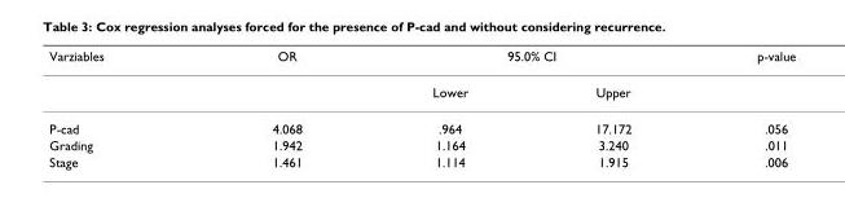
<table><thead><tr><td rowspan="2">Varziables</td><td rowspan="2">OR</td><td colspan="2">95.0% CI</td><td rowspan="2">p-value</td></tr><tr><td>Lower</td><td>Upper</td></tr></thead><tbody><tr><td>P-cad</td><td>4.068</td><td>.964</td><td>17.172</td><td>.056</td></tr><tr><td>Grading</td><td>1.942</td><td>1.164</td><td>3.240</td><td>.011</td></tr><tr><td>Stage</td><td>1.461</td><td>1.114</td><td>1.915</td><td>.006</td></tr></tbody></table>